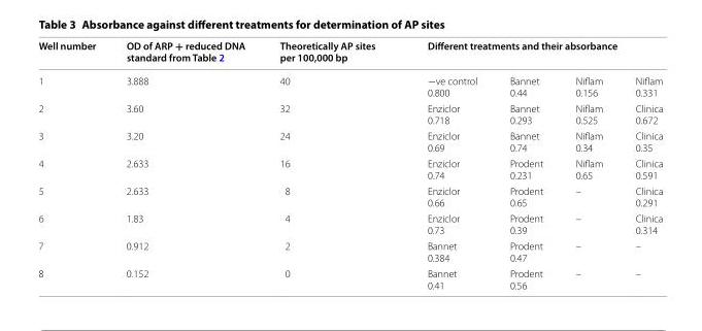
<table><thead><tr><td rowspan="2">Well number 1</td><td rowspan="2">OD of ARP + reduced DNA standard from Table 2 3.888</td><td rowspan="2">Theoretically AP sites per 100,000 bp 40</td><td colspan="4">Different treatments and their absorbance</td></tr><tr><td>−ve control 0.800</td><td>Bannet 0.44</td><td>Niflam 0.156</td><td>Niflam 0.331</td></tr></thead><tbody><tr><td>2</td><td>3.60</td><td>32</td><td>Enziclor 0.718</td><td>Bannet 0.293</td><td>Niflam 0.525</td><td>Clinica 0.672</td></tr><tr><td>3</td><td>3.20</td><td>24</td><td>Enziclor 0.69</td><td>Bannet 0.74</td><td>Niflam 0.34</td><td>Clinica 0.35</td></tr><tr><td>4</td><td>2.633</td><td>16</td><td>Enziclor 0.74</td><td>Prodent 0.231</td><td>Niflam 0.65</td><td>Clinica 0.591</td></tr><tr><td>5</td><td>2.633</td><td>8</td><td>Enziclor 0.66</td><td>Prodent 0.65</td><td>–</td><td>Clinica 0.291</td></tr><tr><td>6</td><td>1.83</td><td>4</td><td>Enziclor 0.73</td><td>Prodent 0.39</td><td>–</td><td>Clinica 0.314</td></tr><tr><td>7</td><td>0.912</td><td>2</td><td>Bannet 0.384</td><td>Prodent 0.47</td><td>–</td><td>–</td></tr><tr><td>8</td><td>0.152</td><td>0</td><td>Bannet 0.41</td><td>Prodent 0.56</td><td>–</td><td>–</td></tr></tbody></table>